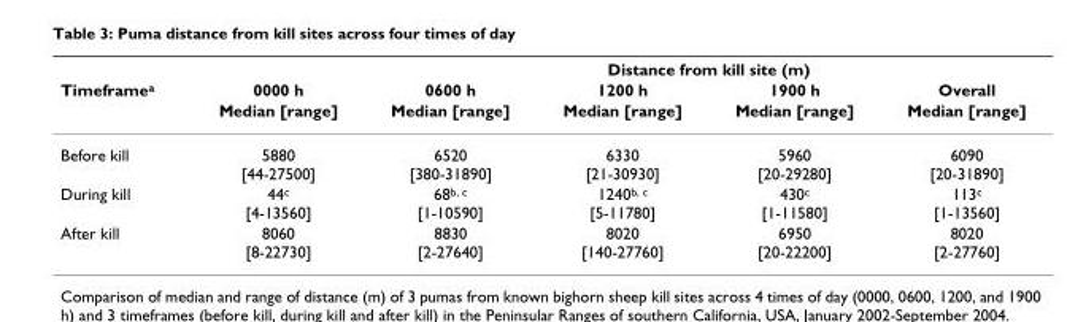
<table><thead><tr><td rowspan="3">Timeframe<sup>a</sup></td><td rowspan="3">0000 h Median [range]</td><td colspan="4">Distance from kill site (m)</td></tr><tr><td rowspan="2">0600 h Median [range]</td><td rowspan="2">1200 h Median [range]</td><td rowspan="2">1900 h Median [range]</td><td rowspan="2">Overall Median [range]</td></tr><tr></tr></thead><tbody><tr><td>Before kill</td><td>5880 [44-27500]</td><td>6520 [380-31890]</td><td>6330 [21-30930]</td><td>5960 [20-29280]</td><td>6090 [20-31890]</td></tr><tr><td>During kill</td><td>44<sup>c</sup> [4-13560]</td><td>68<sup>b, c</sup> [1-10590]</td><td>1240<sup>b, c</sup> [5-11780]</td><td>430<sup>c</sup> [1-11580]</td><td>113<sup>c</sup> [1-13560]</td></tr><tr><td>After kill</td><td>8060 [8-22730]</td><td>8830 [2-27640]</td><td>8020 [140-27760]</td><td>6950 [20-22200]</td><td>8020 [2-27760]</td></tr></tbody></table>